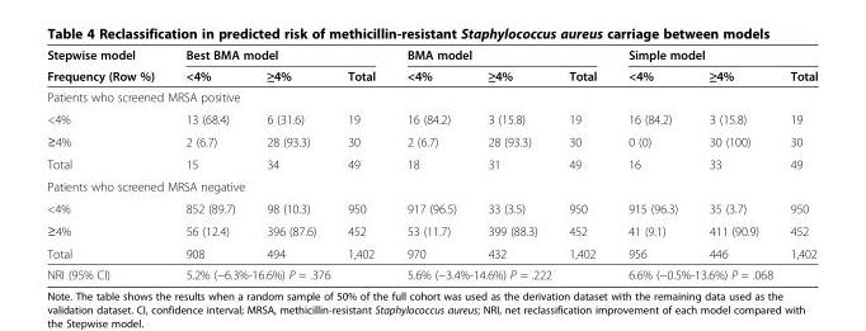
<table><thead><tr><td rowspan="2">Stepwise model Frequency (Row %)</td><td colspan="3">Best BMA model</td><td colspan="3">BMA model</td><td colspan="3">Simple model</td></tr><tr><td>&lt;4%</td><td>≥4%</td><td>Total</td><td>&lt;4%</td><td>≥4%</td><td>Total</td><td>&lt;4%</td><td>≥4%</td><td>Total</td></tr></thead><tbody><tr><td colspan="10">Patients who screened MRSA positive</td></tr><tr><td>&lt;4%</td><td>13 (68.4)</td><td>6 (31.6)</td><td>19</td><td>16 (84.2)</td><td>3 (15.8)</td><td>19</td><td>16 (84.2)</td><td>3 (15.8)</td><td>19</td></tr><tr><td>≥4%</td><td>2 (6.7)</td><td>28 (93.3)</td><td>30</td><td>2 (6.7)</td><td>28 (93.3)</td><td>30</td><td>0 (0)</td><td>30 (100)</td><td>30</td></tr><tr><td>Total</td><td>15</td><td>34</td><td>49</td><td>18</td><td>31</td><td>49</td><td>16</td><td>33</td><td>49</td></tr><tr><td colspan="10">Patients who screened MRSA negative</td></tr><tr><td>&lt;4%</td><td>852 (89.7)</td><td>98 (10.3)</td><td>950</td><td>917 (96.5)</td><td>33 (3.5)</td><td>950</td><td>915 (96.3)</td><td>35 (3.7)</td><td>950</td></tr><tr><td>≥4%</td><td>56 (12.4)</td><td>396 (87.6)</td><td>452</td><td>53 (11.7)</td><td>399 (88.3)</td><td>452</td><td>41 (9.1)</td><td>411 (90.9)</td><td>452</td></tr><tr><td>Total</td><td>908</td><td>494</td><td>1,402</td><td>970</td><td>432</td><td>1,402</td><td>956</td><td>446</td><td>1,402</td></tr><tr><td>NRI (95% CI)</td><td colspan="3">5.2% (−6.3%-16.6%) P = .376</td><td colspan="3">5.6% (−3.4%-14.6%) P = .222</td><td colspan="3">6.6% (−0.5%-13.6%) P = .068</td></tr></tbody></table>